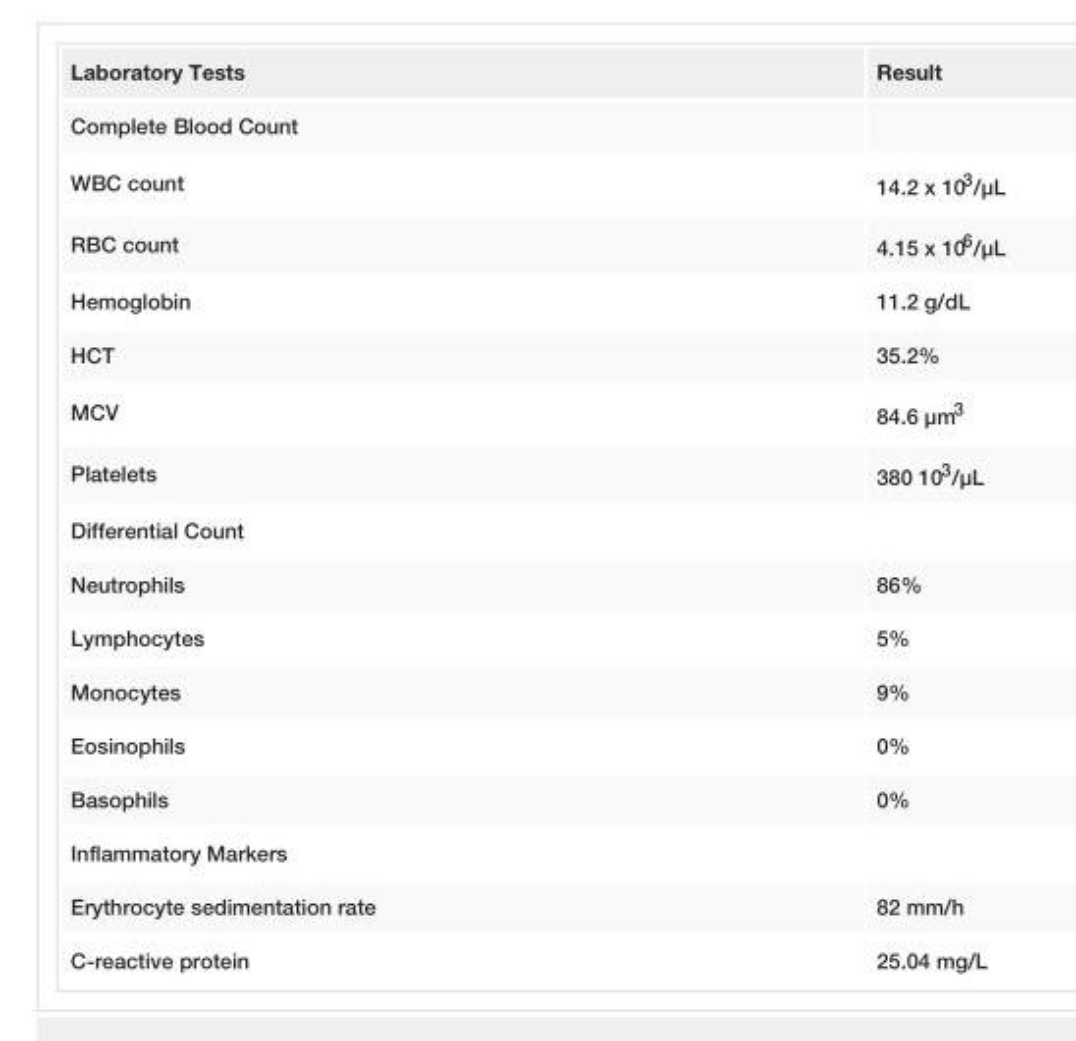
<table><tbody><tr><td>Laboratory Tests</td><td>Result</td></tr><tr><td colspan="2">Complete Blood Count</td></tr><tr><td>WBC count</td><td>14.2 x 10<sup>3</sup>/µL</td></tr><tr><td>RBC count</td><td>4.15 x 10<sup>6</sup>/µL</td></tr><tr><td>Hemoglobin</td><td>11.2 g/dL</td></tr><tr><td>HCT</td><td>35.2%</td></tr><tr><td>MCV</td><td>84.6 µm<sup>3</sup></td></tr><tr><td>Platelets</td><td>380 10<sup>3</sup>/µL</td></tr><tr><td colspan="2">Differential Count</td></tr><tr><td>Neutrophils</td><td>86%</td></tr><tr><td>Lymphocytes</td><td>5%</td></tr><tr><td>Monocytes</td><td>9%</td></tr><tr><td>Eosinophils</td><td>0%</td></tr><tr><td>Basophils</td><td>0%</td></tr><tr><td colspan="2">Inflammatory Markers</td></tr><tr><td>Erythrocyte sedimentation rate</td><td>82 mm/h</td></tr><tr><td>C-reactive protein</td><td>25.04 mg/L</td></tr></tbody></table>